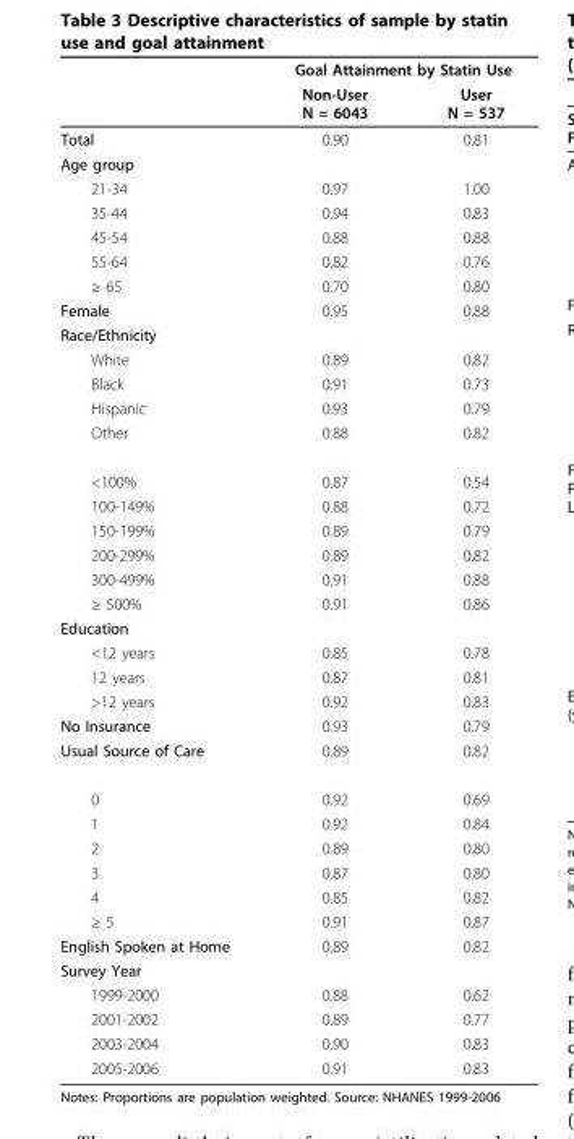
<table><thead><tr><td rowspan="2"></td><td colspan="2">Goal Attainment by Statin Use</td></tr><tr><td>Non-User N = 6043</td><td>User N = 537</td></tr></thead><tbody><tr><td>Total</td><td>0.90</td><td>0.81</td></tr><tr><td colspan="3">Age group</td></tr><tr><td>21-34</td><td>0.97</td><td>1.00</td></tr><tr><td>35-44</td><td>0.94</td><td>0.83</td></tr><tr><td>45-54</td><td>0.88</td><td>0.88</td></tr><tr><td>55-64</td><td>0.82</td><td>0.76</td></tr><tr><td>≥ 65</td><td>0.70</td><td>0.80</td></tr><tr><td>Female</td><td>0.95</td><td>0.88</td></tr><tr><td colspan="3">Race/Ethnicity</td></tr><tr><td>White</td><td>0.89</td><td>0.82</td></tr><tr><td>Black</td><td>0.91</td><td>0.73</td></tr><tr><td>Hispanic</td><td>0.93</td><td>0.79</td></tr><tr><td>Other</td><td>0.88</td><td>0.82</td></tr><tr><td>&lt;100%</td><td>0.87</td><td>0.54</td></tr><tr><td>100-149%</td><td>0.88</td><td>0.72</td></tr><tr><td>150-199%</td><td>0.89</td><td>0.79</td></tr><tr><td>200-299%</td><td>0.89</td><td>0.82</td></tr><tr><td>300-499%</td><td>0.91</td><td>0.88</td></tr><tr><td>≥ 500%</td><td>0.91</td><td>0.86</td></tr><tr><td colspan="3">Education</td></tr><tr><td>&lt;12 years</td><td>0.85</td><td>0.78</td></tr><tr><td>12 years</td><td>0.87</td><td>0.81</td></tr><tr><td>&gt;12 years</td><td>0.92</td><td>0.83</td></tr><tr><td>No Insurance</td><td>0.93</td><td>0.79</td></tr><tr><td>Usual Source of Care</td><td>0.89</td><td>0.82</td></tr><tr><td>0</td><td>0.92</td><td>0.69</td></tr><tr><td>1</td><td>0.92</td><td>0.84</td></tr><tr><td>2</td><td>0.89</td><td>0.80</td></tr><tr><td>3</td><td>0.87</td><td>0.80</td></tr><tr><td>4</td><td>0.85</td><td>0.82</td></tr><tr><td>≥ 5</td><td>0.91</td><td>0.87</td></tr><tr><td>English Spoken at Home</td><td>0.89</td><td>0.82</td></tr><tr><td colspan="3">Survey Year</td></tr><tr><td>1999-2000</td><td>0.88</td><td>0.62</td></tr><tr><td>2001-2002</td><td>0.89</td><td>0.77</td></tr><tr><td>2003-2004</td><td>0.90</td><td>0.83</td></tr><tr><td>2005-2006</td><td>0.91</td><td>0.83</td></tr></tbody></table>